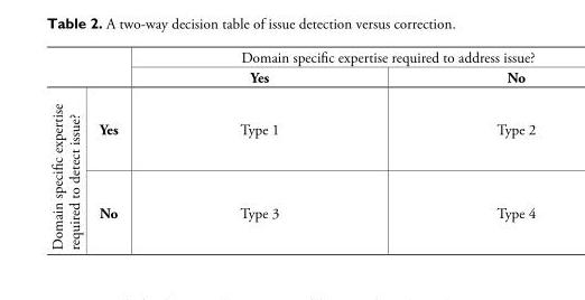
<table><thead><tr><td rowspan="2"></td><td rowspan="2"></td><td colspan="2">Domain specific expertise required to address issue?</td></tr><tr><td>Yes</td><td>No</td></tr></thead><tbody><tr><td rowspan="2">Domain specific expertise required to detect issue?</td><td>Yes</td><td>Type 1</td><td>Type 2</td></tr><tr><td>No</td><td>Type 3</td><td>Type 4</td></tr></tbody></table>